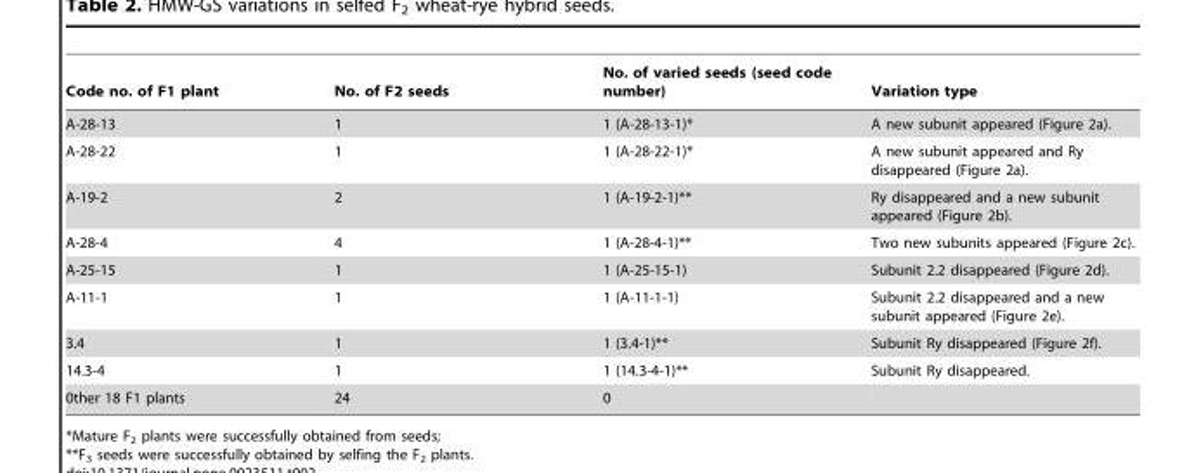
<table><thead><tr><td>Code no. of F1 plant</td><td>No. of F2 seeds</td><td>No. of varied seeds (seed code number)</td><td>Variation type</td></tr></thead><tbody><tr><td>A-28-13</td><td>1</td><td>1 (A-28-13-1)*</td><td>A new subunit appeared (Figure 2a).</td></tr><tr><td>A-28-22</td><td>1</td><td>1 (A-28-22-1)*</td><td>A new subunit appeared and Ry disappeared (Figure 2a).</td></tr><tr><td>A-19-2</td><td>2</td><td>1 (A-19-2-1)**</td><td>Ry disappeared and a new subunit appeared (Figure 2b).</td></tr><tr><td>A-28-4</td><td>4</td><td>1 (A-28-4-1)**</td><td>Two new subunits appeared (Figure 2c).</td></tr><tr><td>A-25-15</td><td>1</td><td>1 (A-25-15-1)</td><td>Subunit 2.2 disappeared (Figure 2d).</td></tr><tr><td>A-11-1</td><td>1</td><td>1 (A-11-1-1)</td><td>Subunit 2.2 disappeared and a new subunit appeared (Figure 2e).</td></tr><tr><td>3.4</td><td>1</td><td>1 (3.4-1)**</td><td>Subunit Ry disappeared (Figure 2f).</td></tr><tr><td>14.3-4</td><td>1</td><td>1 (14.3-4-1)**</td><td>Subunit Ry disappeared.</td></tr><tr><td>0ther 18 F1 plants</td><td>24</td><td>0</td><td></td></tr></tbody></table>